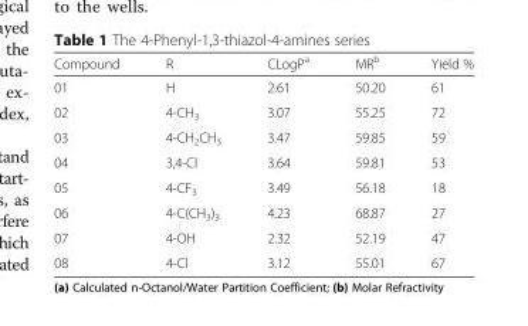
<table><thead><tr><td>Compound</td><td>R</td><td>CLogP<sup>a</sup></td><td>MR<sup>b</sup></td><td>Yield %</td></tr></thead><tbody><tr><td>01</td><td>H</td><td>2.61</td><td>50.20</td><td>61</td></tr><tr><td>02</td><td>4-CH<sub>3</sub></td><td>3.07</td><td>55.25</td><td>72</td></tr><tr><td>03</td><td>4-CH<sub>2</sub>CH<sub>3</sub></td><td>3.47</td><td>59.85</td><td>59</td></tr><tr><td>04</td><td>3,4-Cl</td><td>3.64</td><td>59.81</td><td>53</td></tr><tr><td>05</td><td>4-CF<sub>3</sub></td><td>3.49</td><td>56.18</td><td>18</td></tr><tr><td>06</td><td>4-C(CH<sub>3</sub>)<sub>3</sub></td><td>4.23</td><td>68.87</td><td>27</td></tr><tr><td>07</td><td>4-OH</td><td>2.32</td><td>52.19</td><td>47</td></tr><tr><td>08</td><td>4-Cl</td><td>3.12</td><td>55.01</td><td>67</td></tr></tbody></table>